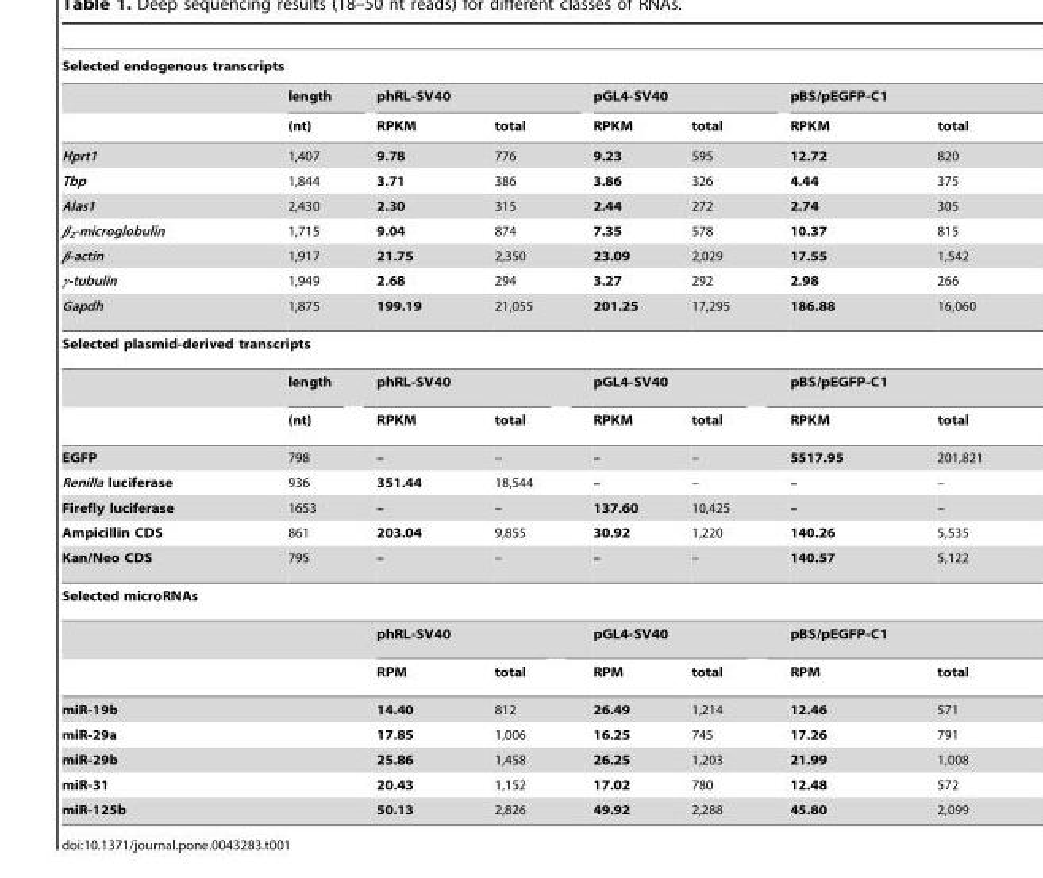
<table><thead><tr><td colspan="8">Selected endogenous transcripts</td></tr><tr><td rowspan="2"></td><td rowspan="2">length (nt)</td><td colspan="2">phRL-SV40</td><td colspan="2">pGL4-SV40</td><td colspan="2">pBS/pEGFP-C1</td></tr><tr><td>RPKM</td><td>total</td><td>RPKM</td><td>total</td><td>RPKM</td><td>total</td></tr></thead><tbody><tr><td>Hprt1</td><td>1,407</td><td>9.78</td><td>776</td><td>9.23</td><td>595</td><td>12.72</td><td>820</td></tr><tr><td>Tbp</td><td>1,844</td><td>3.71</td><td>386</td><td>3.86</td><td>326</td><td>4.44</td><td>375</td></tr><tr><td>Alas1</td><td>2,430</td><td>2.30</td><td>315</td><td>2.44</td><td>272</td><td>2.74</td><td>305</td></tr><tr><td>β<sub>2</sub>-microglobulin</td><td>1,715</td><td>9.04</td><td>874</td><td>7.35</td><td>578</td><td>10.37</td><td>815</td></tr><tr><td>β-actin</td><td>1,917</td><td>21.75</td><td>2,350</td><td>23.09</td><td>2,029</td><td>17.55</td><td>1,542</td></tr><tr><td>γ-tubulin</td><td>1,949</td><td>2.68</td><td>294</td><td>3.27</td><td>292</td><td>2.98</td><td>266</td></tr><tr><td>Gapdh</td><td>1,875</td><td>199.19</td><td>21,055</td><td>201.25</td><td>17,295</td><td>186.88</td><td>16,060</td></tr><tr><td colspan="8">Selected plasmid-derived transcripts</td></tr><tr><td></td><td>length</td><td colspan="2">phRL-SV40</td><td colspan="2">pGL4-SV40</td><td colspan="2">pBS/pEGFP-C1</td></tr><tr><td></td><td>(nt)</td><td>RPKM</td><td>total</td><td>RPKM</td><td>total</td><td>RPKM</td><td>total</td></tr><tr><td>EGFP</td><td>798</td><td>–</td><td>–</td><td>–</td><td>–</td><td>5517.95</td><td>201,821</td></tr><tr><td>Renilla luciferase</td><td>936</td><td>351.44</td><td>18,544</td><td>–</td><td>–</td><td>–</td><td>–</td></tr><tr><td>Firefly luciferase</td><td>1653</td><td>–</td><td>–</td><td>137.60</td><td>10,425</td><td>–</td><td>–</td></tr><tr><td>Ampicillin CDS</td><td>861</td><td>203.04</td><td>9,855</td><td>30.92</td><td>1,220</td><td>140.26</td><td>5,535</td></tr><tr><td>Kan/Neo CDS</td><td>795</td><td>–</td><td>–</td><td>–</td><td>–</td><td>140.57</td><td>5,122</td></tr><tr><td colspan="8">Selected microRNAs</td></tr><tr><td colspan="2"></td><td colspan="2">phRL-SV40</td><td colspan="2">pGL4-SV40</td><td colspan="2">pBS/pEGFP-C1</td></tr><tr><td colspan="2"></td><td>RPM</td><td>total</td><td>RPM</td><td>total</td><td>RPM</td><td>total</td></tr><tr><td colspan="2">miR-19b</td><td>14.40</td><td>812</td><td>26.49</td><td>1,214</td><td>12.46</td><td>571</td></tr><tr><td colspan="2">miR-29a</td><td>17.85</td><td>1,006</td><td>16.25</td><td>745</td><td>17.26</td><td>791</td></tr><tr><td colspan="2">miR-29b</td><td>25.86</td><td>1,458</td><td>26.25</td><td>1,203</td><td>21.99</td><td>1,008</td></tr><tr><td colspan="2">miR-31</td><td>20.43</td><td>1,152</td><td>17.02</td><td>780</td><td>12.48</td><td>572</td></tr><tr><td colspan="2">miR-125b</td><td>50.13</td><td>2,826</td><td>49.92</td><td>2,288</td><td>45.80</td><td>2,099</td></tr></tbody></table>